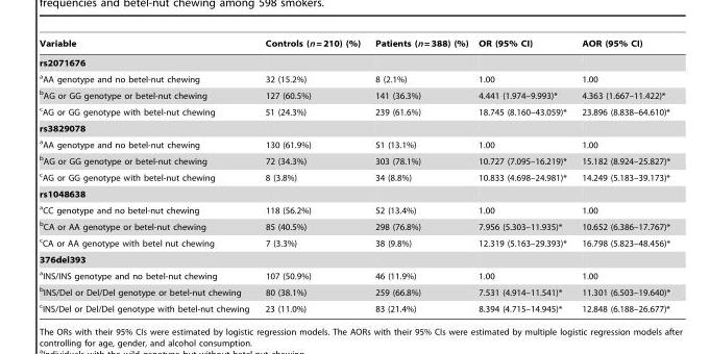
<table><thead><tr><td>Variable</td><td>Controls (n = 210) (%)</td><td>Patients (n = 388) (%)</td><td>OR (95% CI)</td><td>AOR (95% CI)</td></tr></thead><tbody><tr><td colspan="5">rs2071676</td></tr><tr><td>aAA genotype and no betel-nut chewing</td><td>32 (15.2%)</td><td>8 (2.1%)</td><td>1.00</td><td>1.00</td></tr><tr><td>bAG or GG genotype or betel-nut chewing</td><td>127 (60.5%)</td><td>141 (36.3%)</td><td>4.441 (1.974–9.993)*</td><td>4.363 (1.667–11.422)*</td></tr><tr><td>cAG or GG genotype with betel-nut chewing</td><td>51 (24.3%)</td><td>239 (61.6%)</td><td>18.745 (8.160–43.059)*</td><td>23.896 (8.838–64.610)*</td></tr><tr><td colspan="5">rs3829078</td></tr><tr><td>aAA genotype and no betel-nut chewing</td><td>130 (61.9%)</td><td>51 (13.1%)</td><td>1.00</td><td>1.00</td></tr><tr><td>bAG or GG genotype or betel-nut chewing</td><td>72 (34.3%)</td><td>303 (78.1%)</td><td>10.727 (7.095–16.219)*</td><td>15.182 (8.924–25.827)*</td></tr><tr><td>cAG or GG genotype with betel-nut chewing</td><td>8 (3.8%)</td><td>34 (8.8%)</td><td>10.833 (4.698–24.981)*</td><td>14.249 (5.183–39.173)*</td></tr><tr><td colspan="5">rs1048638</td></tr><tr><td>aCC genotype and no betel-nut chewing</td><td>118 (56.2%)</td><td>52 (13.4%)</td><td>1.00</td><td>1.00</td></tr><tr><td>bCA or AA genotype or betel-nut chewing</td><td>85 (40.5%)</td><td>298 (76.8%)</td><td>7.956 (5.303–11.935)*</td><td>10.652 (6.386–17.767)*</td></tr><tr><td>cCA or AA genotype with betel nut chewing</td><td>7 (3.3%)</td><td>38 (9.8%)</td><td>12.319 (5.163–29.393)*</td><td>16.798 (5.823–48.456)*</td></tr><tr><td colspan="5">376del393</td></tr><tr><td>aINS/INS genotype and no betel-nut chewing</td><td>107 (50.9%)</td><td>46 (11.9%)</td><td>1.00</td><td>1.00</td></tr><tr><td>bINS/Del or Del/Del genotype or betel-nut chewing</td><td>80 (38.1%)</td><td>259 (66.8%)</td><td>7.531 (4.914–11.541)*</td><td>11.301 (6.503–19.640)*</td></tr><tr><td>cINS/Del or Del/Del genotype with betel-nut chewing</td><td>23 (11.0%)</td><td>83 (21.4%)</td><td>8.394 (4.715–14.945)*</td><td>12.848 (6.188–26.677)*</td></tr></tbody></table>